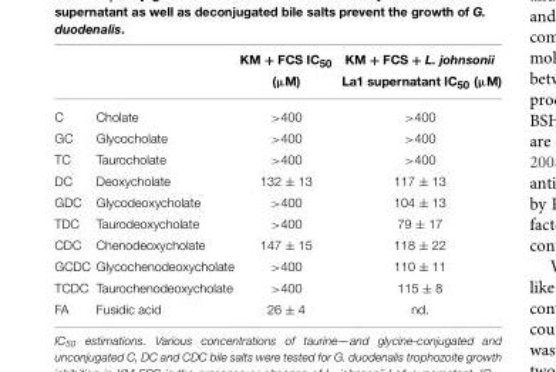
<table><thead><tr><td></td><td></td><td>KM + FCS IC<sub>50</sub> (µM)</td><td>KM + FCS + L. johnsonii La1 supernatant IC<sub>50</sub> (µM)</td></tr></thead><tbody><tr><td>C</td><td>Cholate</td><td>&gt;400</td><td>&gt;400</td></tr><tr><td>GC</td><td>Glycocholate</td><td>&gt;400</td><td>&gt;400</td></tr><tr><td>TC</td><td>Taurocholate</td><td>&gt;400</td><td>&gt;400</td></tr><tr><td>DC</td><td>Deoxycholate</td><td>132 ± 13</td><td>117 ± 13</td></tr><tr><td>GDC</td><td>Glycodeoxycholate</td><td>&gt;400</td><td>104 ± 13</td></tr><tr><td>TDC</td><td>Taurodeoxycholate</td><td>&gt;400</td><td>79 ± 17</td></tr><tr><td>CDC</td><td>Chenodeoxycholate</td><td>147 ± 15</td><td>118 ± 22</td></tr><tr><td>GCDC</td><td>Glycochenodeoxycholate</td><td>&gt;400</td><td>110 ± 11</td></tr><tr><td>TCDC</td><td>Taurochenodeoxycholate</td><td>&gt;400</td><td>115 ± 8</td></tr><tr><td>FA</td><td>Fusidic acid</td><td>26 ± 4</td><td>nd.</td></tr></tbody></table>